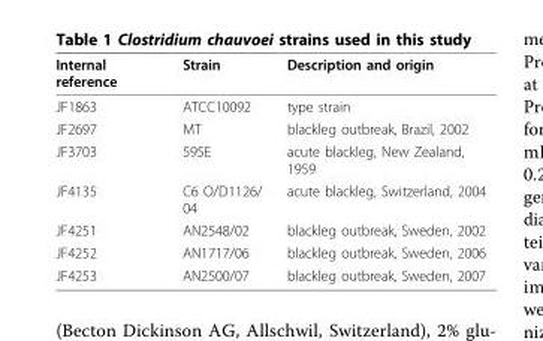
<table><thead><tr><td>Internal reference</td><td>Strain</td><td>Description and origin</td></tr></thead><tbody><tr><td>JF1863</td><td>ATCC10092</td><td>type strain</td></tr><tr><td>JF2697</td><td>MT</td><td>blackleg outbreak, Brazil, 2002</td></tr><tr><td>JF3703</td><td>595E</td><td>acute blackleg, New Zealand, 1959</td></tr><tr><td>JF4135</td><td>C6 O/D1126/ 04</td><td>acute blackleg, Switzerland, 2004</td></tr><tr><td>JF4251</td><td>AN2548/02</td><td>blackleg outbreak, Sweden, 2002</td></tr><tr><td>JF4252</td><td>AN1717/06</td><td>blackleg outbreak, Sweden, 2006</td></tr><tr><td>JF4253</td><td>AN2500/07</td><td>blackleg outbreak, Sweden, 2007</td></tr></tbody></table>